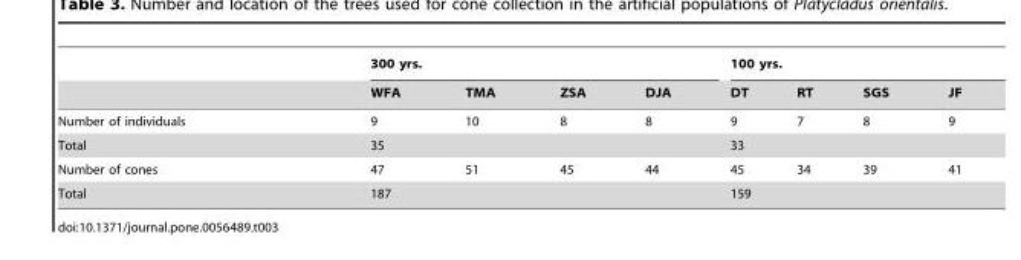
<table><thead><tr><td rowspan="2"></td><td colspan="4">300 yrs.</td><td colspan="4">100 yrs.</td></tr><tr><td>WFA</td><td>TMA</td><td>ZSA</td><td>DJA</td><td>DT</td><td>RT</td><td>SGS</td><td>JF</td></tr></thead><tbody><tr><td>Number of individuals</td><td>9</td><td>10</td><td>8</td><td>8</td><td>9</td><td>7</td><td>8</td><td>9</td></tr><tr><td>Total</td><td colspan="4">35</td><td colspan="4">33</td></tr><tr><td>Number of cones</td><td>47</td><td>51</td><td>45</td><td>44</td><td>45</td><td>34</td><td>39</td><td>41</td></tr><tr><td>Total</td><td colspan="4">187</td><td colspan="4">159</td></tr></tbody></table>